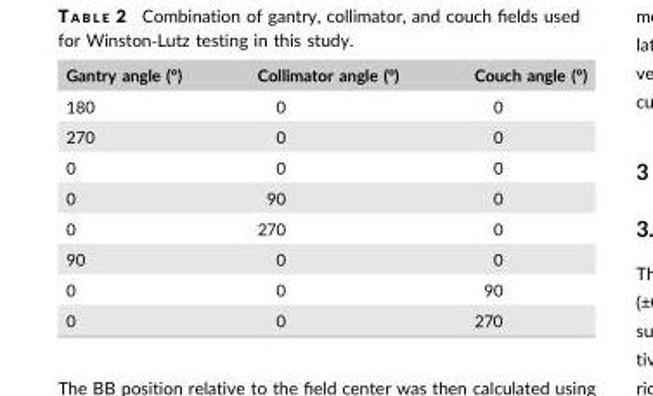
<table><thead><tr><td>Gantry angle (°)</td><td>Collimator angle (°)</td><td>Couch angle (°)</td></tr></thead><tbody><tr><td>180</td><td>0</td><td>0</td></tr><tr><td>270</td><td>0</td><td>0</td></tr><tr><td>0</td><td>0</td><td>0</td></tr><tr><td>0</td><td>90</td><td>0</td></tr><tr><td>0</td><td>270</td><td>0</td></tr><tr><td>90</td><td>0</td><td>0</td></tr><tr><td>0</td><td>0</td><td>90</td></tr><tr><td>0</td><td>0</td><td>270</td></tr></tbody></table>